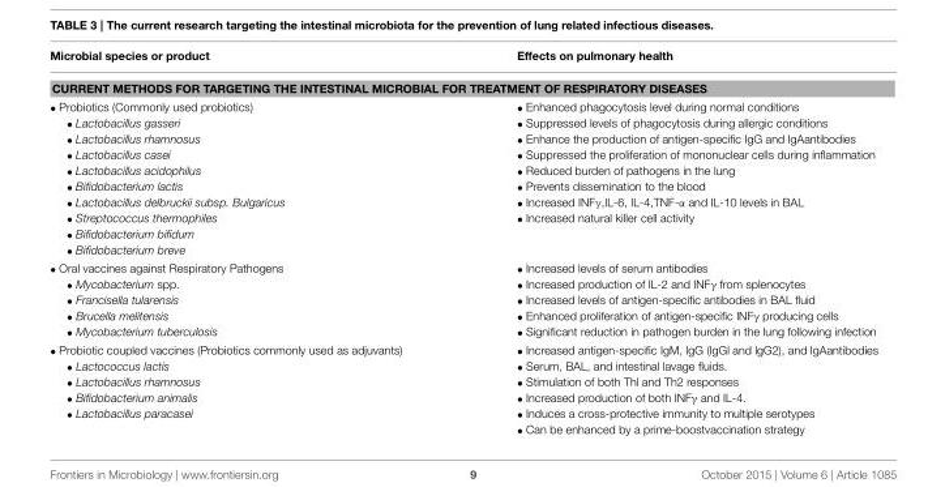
<table><thead><tr><td>Microbial species or product</td><td>Effects on pulmonary health</td></tr></thead><tbody><tr><td colspan="2">CURRENT METHODS FOR TARGETING THE INTESTINAL MICROBIAL FOR TREATMENT OF RESPIRATORY DISEASES</td></tr><tr><td>• Probiotics (Commonly used probiotics) • Lactobacillus gasseri • Lactobacillus rhamnosus • Lactobacillus casei • Lactobacillus acidophilus • Bifidobacterium lactis • Lactobacillus delbruckii subsp. Bulgaricus • Streptococcus thermophiles • Bifidobacterium bifidum • Bifidobacterium breve</td><td>• Enhanced phagocytosis level during normal conditions • Suppressed levels of phagocytosis during allergic conditions • Enhance the production of antigen-specific IgG and IgAantibodies • Suppressed the proliferation of mononuclear cells during inflammation • Reduced burden of pathogens in the lung • Prevents dissemination to the blood • Increased INFγ,IL-6, IL-4,TNF-α and IL-10 levels in BAL • Increased natural killer cell activity</td></tr><tr><td>• Oral vaccines against Respiratory Pathogens • Mycobacterium spp. • Francisella tularensis • Brucella melitensis • Mycobacterium tuberculosis</td><td>• Increased levels of serum antibodies • Increased production of IL-2 and INFγ from splenocytes • Increased levels of antigen-specific antibodies in BAL fluid • Enhanced proliferation of antigen-specific INFγ producing cells • Significant reduction in pathogen burden in the lung following infection</td></tr><tr><td>• Probiotic coupled vaccines (Probiotics commonly used as adjuvants) • Lactococcus lactis • Lactobacillus rhamnosus • Bifidobacterium animalis • Lactobacillus paracasei</td><td>• Increased antigen-specific IgM, IgG (IgGl and lgG2), and IgAantibodies • Serum, BAL, and intestinal lavage fluids. • Stimulation of both Thl and Th2 responses • Increased production of both INFγ and IL-4. • Induces a cross-protective immunity to multiple serotypes • Can be enhanced by a prime-boostvaccination strategy</td></tr></tbody></table>